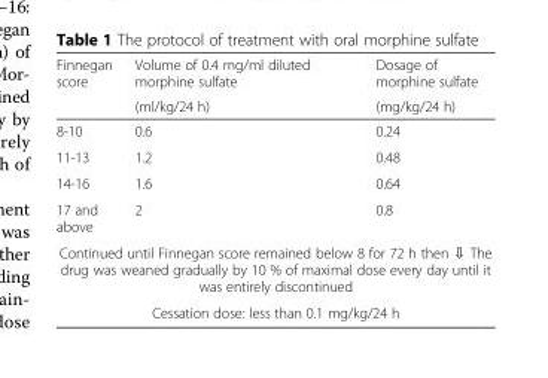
<table><thead><tr><td rowspan="2">Finnegan score</td><td rowspan="2">Volume of 0.4 mg/ml diluted morphine sulfate (ml/kg/24 h)</td><td rowspan="2">Dosage of morphine sulfate (mg/kg/24 h)</td></tr><tr></tr></thead><tbody><tr><td>8-10</td><td>0.6</td><td>0.24</td></tr><tr><td>11-13</td><td>1.2</td><td>0.48</td></tr><tr><td>14-16</td><td>1.6</td><td>0.64</td></tr><tr><td>17 and above</td><td>2</td><td>0.8</td></tr><tr><td colspan="3">Continued until Finnegan score remained below 8 for 72 h then ⇩ The drug was weaned gradually by 10 % of maximal dose every day until it was entirely discontinued</td></tr><tr><td colspan="3">Cessation dose: less than 0.1 mg/kg/24 h</td></tr></tbody></table>